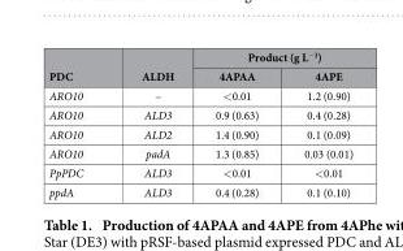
<table><thead><tr><td rowspan="2">PDC</td><td rowspan="2">ALDH</td><td colspan="2">Product (g L<sup>−1</sup>)</td></tr><tr><td>4APAA</td><td>4APE</td></tr></thead><tbody><tr><td>ARO10</td><td>–</td><td>&lt; 0.01</td><td>1.2 (0.90)</td></tr><tr><td>ARO10</td><td>ALD3</td><td>0.9 (0.63)</td><td>0.4 (0.28)</td></tr><tr><td>ARO10</td><td>ALD2</td><td>1.4 (0.90)</td><td>0.1 (0.09)</td></tr><tr><td>ARO10</td><td>padA</td><td>1.3 (0.85)</td><td>0.03 (0.01)</td></tr><tr><td>PpPDC</td><td>ALD3</td><td>&lt; 0.01</td><td>&lt; 0.01</td></tr><tr><td>ppdA</td><td>ALD3</td><td>0.4 (0.28)</td><td>0.1 (0.10)</td></tr></tbody></table>